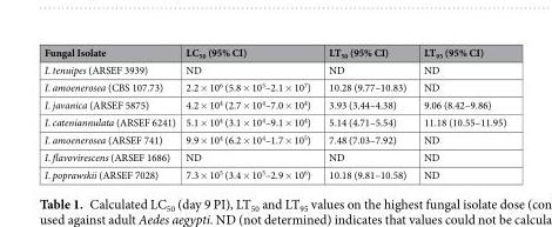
<table><thead><tr><td>Fungal Isolate</td><td>LC<sub>50</sub> (95% CI)</td><td>LT<sub>50</sub> (95% CI)</td><td>LT<sub>95</sub> (95% CI)</td></tr></thead><tbody><tr><td>I. tenuipes (ARSEF 3939)</td><td>ND</td><td>ND</td><td>ND</td></tr><tr><td>I. amoenerosea (CBS 107.73)</td><td>2.2 × 10<sup>6</sup> (5.8 × 10<sup>5</sup>–2.1 × 10<sup>7</sup>)</td><td>10.28 (9.77–10.83)</td><td>ND</td></tr><tr><td>I. javanica (ARSEF 5875)</td><td>4.2 × 10<sup>4</sup> (2.7 × 10<sup>4</sup>–7.0 × 10<sup>4</sup>)</td><td>3.93 (3.44–4.38)</td><td>9.06 (8.42–9.86)</td></tr><tr><td>I. cateniannulata (ARSEF 6241)</td><td>5.1 × 10<sup>4</sup> (3.1 × 10<sup>4</sup>–9.1 × 10<sup>4</sup>)</td><td>5.14 (4.71–5.54)</td><td>11.18 (10.55–11.95)</td></tr><tr><td>I. amoenerosea (ARSEF 741)</td><td>9.9 × 10<sup>4</sup> (6.2 × 10<sup>4</sup>–1.7 × 10<sup>5</sup>)</td><td>7.48 (7.03–7.92)</td><td>ND</td></tr><tr><td>I. flavovirescens (ARSEF 1686)</td><td>ND</td><td>ND</td><td>ND</td></tr><tr><td>I. poprawskii (ARSEF 7028)</td><td>7.3 × 10<sup>5</sup> (3.4 × 10<sup>5</sup>–2.9 × 10<sup>6</sup>)</td><td>10.18 (9.81–10.58)</td><td>ND</td></tr></tbody></table>